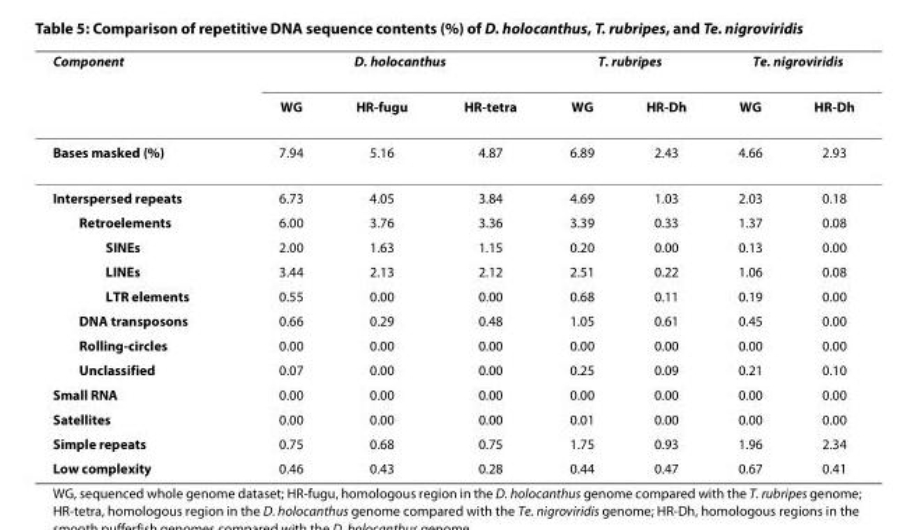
<table><thead><tr><td rowspan="2">Component</td><td colspan="3">D. holocanthus</td><td colspan="2">T. rubripes</td><td colspan="2">Te. nigroviridis</td></tr><tr><td>WG</td><td>HR-fugu</td><td>HR-tetra</td><td>WG</td><td>HR-Dh</td><td>WG</td><td>HR-Dh</td></tr></thead><tbody><tr><td>Bases masked (%)</td><td>7.94</td><td>5.16</td><td>4.87</td><td>6.89</td><td>2.43</td><td>4.66</td><td>2.93</td></tr><tr><td>Interspersed repeats</td><td>6.73</td><td>4.05</td><td>3.84</td><td>4.69</td><td>1.03</td><td>2.03</td><td>0.18</td></tr><tr><td>Retroelements</td><td>6.00</td><td>3.76</td><td>3.36</td><td>3.39</td><td>0.33</td><td>1.37</td><td>0.08</td></tr><tr><td>SINEs</td><td>2.00</td><td>1.63</td><td>1.15</td><td>0.20</td><td>0.00</td><td>0.13</td><td>0.00</td></tr><tr><td>LINEs</td><td>3.44</td><td>2.13</td><td>2.12</td><td>2.51</td><td>0.22</td><td>1.06</td><td>0.08</td></tr><tr><td>LTR elements</td><td>0.55</td><td>0.00</td><td>0.00</td><td>0.68</td><td>0.11</td><td>0.19</td><td>0.00</td></tr><tr><td>DNA transposons</td><td>0.66</td><td>0.29</td><td>0.48</td><td>1.05</td><td>0.61</td><td>0.45</td><td>0.00</td></tr><tr><td>Rolling-circles</td><td>0.00</td><td>0.00</td><td>0.00</td><td>0.00</td><td>0.00</td><td>0.00</td><td>0.00</td></tr><tr><td>Unclassified</td><td>0.07</td><td>0.00</td><td>0.00</td><td>0.25</td><td>0.09</td><td>0.21</td><td>0.10</td></tr><tr><td>Small RNA</td><td>0.00</td><td>0.00</td><td>0.00</td><td>0.00</td><td>0.00</td><td>0.00</td><td>0.00</td></tr><tr><td>Satellites</td><td>0.00</td><td>0.00</td><td>0.00</td><td>0.01</td><td>0.00</td><td>0.00</td><td>0.00</td></tr><tr><td>Simple repeats</td><td>0.75</td><td>0.68</td><td>0.75</td><td>1.75</td><td>0.93</td><td>1.96</td><td>2.34</td></tr><tr><td>Low complexity</td><td>0.46</td><td>0.43</td><td>0.28</td><td>0.44</td><td>0.47</td><td>0.67</td><td>0.41</td></tr></tbody></table>